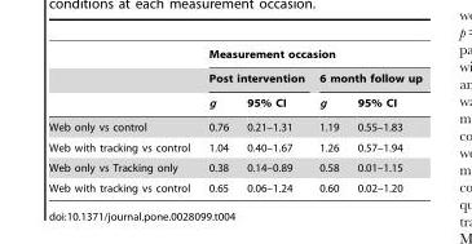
<table><thead><tr><td rowspan="3"></td><td colspan="4">Measurement occasion</td></tr><tr><td colspan="2">Post intervention</td><td colspan="2">6 month follow up</td></tr><tr><td>g</td><td>95% CI</td><td>g</td><td>95% CI</td></tr></thead><tbody><tr><td>Web only vs control</td><td>0.76</td><td>0.21–1.31</td><td>1.19</td><td>0.55–1.83</td></tr><tr><td>Web with tracking vs control</td><td>1.04</td><td>0.40–1.67</td><td>1.26</td><td>0.57–1.94</td></tr><tr><td>Web only vs Tracking only</td><td>0.38</td><td>0.14–0.89</td><td>0.58</td><td>0.01–1.15</td></tr><tr><td>Web with tracking vs control</td><td>0.65</td><td>0.06–1.24</td><td>0.60</td><td>0.02–1.20</td></tr></tbody></table>